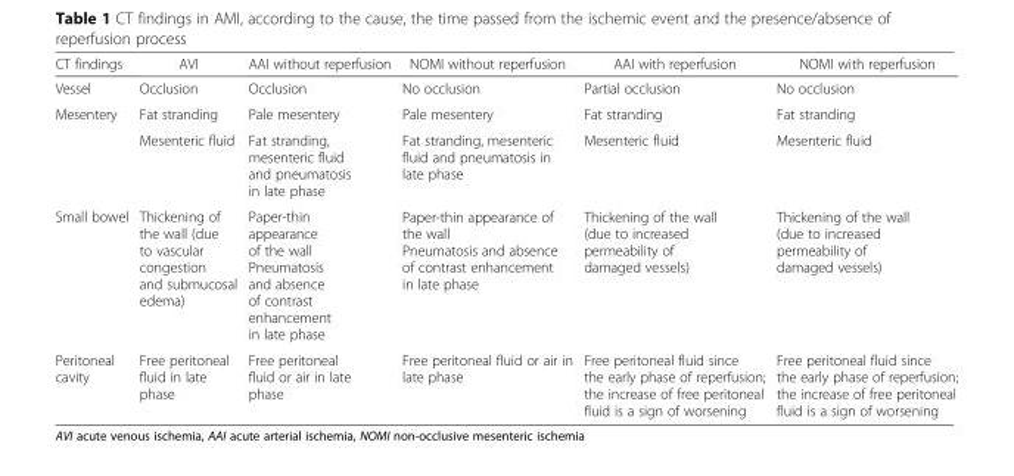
<table><thead><tr><td>CT findings</td><td>AVI</td><td>AAI without reperfusion</td><td>NOMI without reperfusion</td><td>AAI with reperfusion</td><td>NOMI with reperfusion</td></tr></thead><tbody><tr><td>Vessel</td><td>Occlusion</td><td>Occlusion</td><td>No occlusion</td><td>Partial occlusion</td><td>No occlusion</td></tr><tr><td rowspan="2">Mesentery</td><td>Fat stranding</td><td>Pale mesentery</td><td>Pale mesentery</td><td>Fat stranding</td><td>Fat stranding</td></tr><tr><td>Mesenteric fluid</td><td>Fat stranding, mesenteric fluid and pneumatosis in late phase</td><td>Fat stranding, mesenteric fluid and pneumatosis in late phase</td><td>Mesenteric fluid</td><td>Mesenteric fluid</td></tr><tr><td>Small bowel</td><td>Thickening of the wall (due to vascular congestion and submucosal edema)</td><td>Paper-thin appearance of the wall Pneumatosis and absence of contrast enhancement in late phase</td><td>Paper-thin appearance of the wall Pneumatosis and absence of contrast enhancement in late phase</td><td>Thickening of the wall (due to increased permeability of damaged vessels)</td><td>Thickening of the wall (due to increased permeability of damaged vessels)</td></tr><tr><td>Peritoneal cavity</td><td>Free peritoneal fluid in late phase</td><td>Free peritoneal fluid or air in late phase</td><td>Free peritoneal fluid or air in late phase</td><td>Free peritoneal fluid since the early phase of reperfusion; the increase of free peritoneal fluid is a sign of worsening</td><td>Free peritoneal fluid since the early phase of reperfusion; the increase of free peritoneal fluid is a sign of worsening</td></tr></tbody></table>